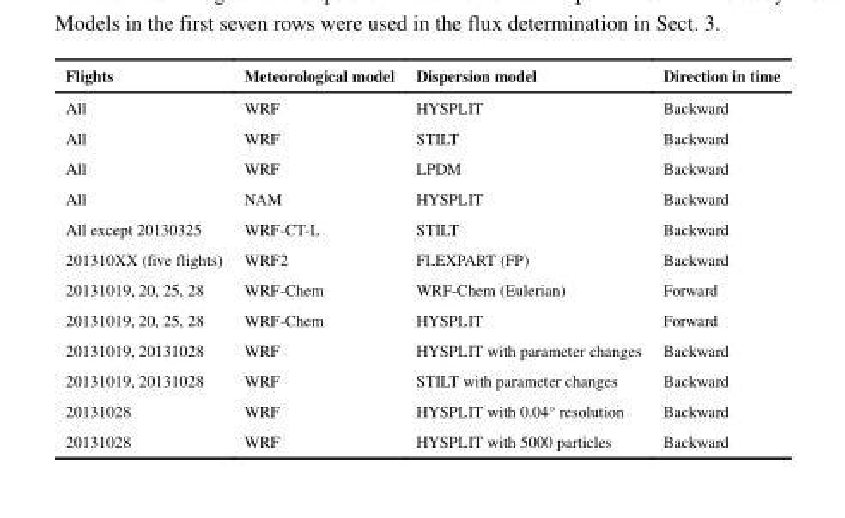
<table><thead><tr><td>Flights</td><td>Meteorological model</td><td>Dispersion model</td><td>Direction in time</td></tr></thead><tbody><tr><td>All</td><td>WRF</td><td>HYSPLIT</td><td>Backward</td></tr><tr><td>All</td><td>WRF</td><td>STILT</td><td>Backward</td></tr><tr><td>All</td><td>WRF</td><td>LPDM</td><td>Backward</td></tr><tr><td>All</td><td>NAM</td><td>HYSPLIT</td><td>Backward</td></tr><tr><td>All except 20130325</td><td>WRF-CT-L</td><td>STILT</td><td>Backward</td></tr><tr><td>201310XX (five flights)</td><td>WRF2</td><td>FLEXPART (FP)</td><td>Backward</td></tr><tr><td>20131019, 20, 25, 28</td><td>WRF-Chem</td><td>WRF-Chem (Eulerian)</td><td>Forward</td></tr><tr><td>20131019, 20, 25, 28</td><td>WRF-Chem</td><td>HYSPLIT</td><td>Forward</td></tr><tr><td>20131019, 20131028</td><td>WRF</td><td>HYSPLIT with parameter changes</td><td>Backward</td></tr><tr><td>20131019, 20131028</td><td>WRF</td><td>STILT with parameter changes</td><td>Backward</td></tr><tr><td>20131028</td><td>WRF</td><td>HYSPLIT with 0.04° resolution</td><td>Backward</td></tr><tr><td>20131028</td><td>WRF</td><td>HYSPLIT with 5000 particles</td><td>Backward</td></tr></tbody></table>